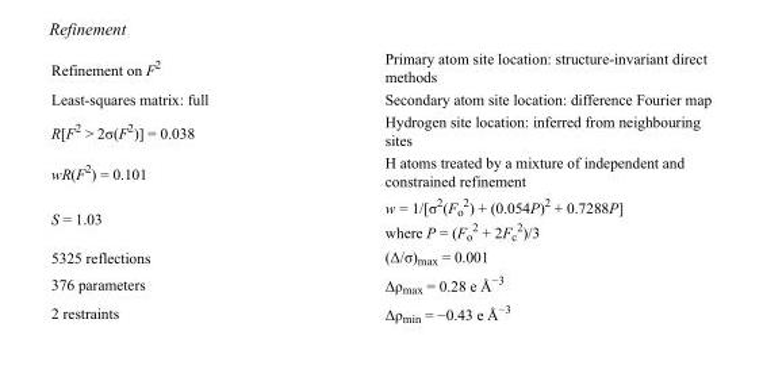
<table><tbody><tr><td>Refinement on F<sup>2</sup></td><td>Primary atom site location: structure-invariant direct methods</td></tr><tr><td>Least-squares matrix: full</td><td>Secondary atom site location: difference Fourier map</td></tr><tr><td>R[F<sup>2</sup> &gt; 2σ(F<sup>2</sup>)] = 0.038</td><td>Hydrogen site location: inferred from neighbouring sites</td></tr><tr><td>wR(F<sup>2</sup>) = 0.101</td><td>H atoms treated by a mixture of independent and constrained refinement</td></tr><tr><td>S = 1.03</td><td>w = 1/[σ<sup>2</sup>(F<sub>o</sub> <sup>2</sup>) + (0.054P)<sup>2</sup> + 0.7288P] where P = (F<sub>o</sub> <sup>2</sup> + 2F<sub>c</sub> <sup>2</sup>)/3</td></tr><tr><td>5325 reflections</td><td>(Δ/σ)<sub>max</sub> = 0.001</td></tr><tr><td>376 parameters</td><td>Δρ<sub>max</sub> = 0.28 e Å<sup>−3</sup></td></tr><tr><td>2 restraints</td><td>Δρ<sub>min</sub> = −0.43 e Å<sup>−3</sup></td></tr></tbody></table>